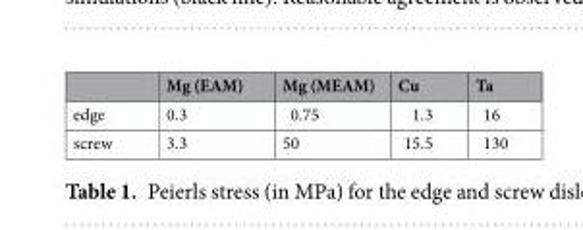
<table><thead><tr><td></td><td>Mg (EAM)</td><td>Mg (MEAM)</td><td>Cu</td><td>Ta</td></tr></thead><tbody><tr><td>edge</td><td>0.3</td><td>0.75</td><td>1.3</td><td>16</td></tr><tr><td>screw</td><td>3.3</td><td>50</td><td>15.5</td><td>130</td></tr></tbody></table>